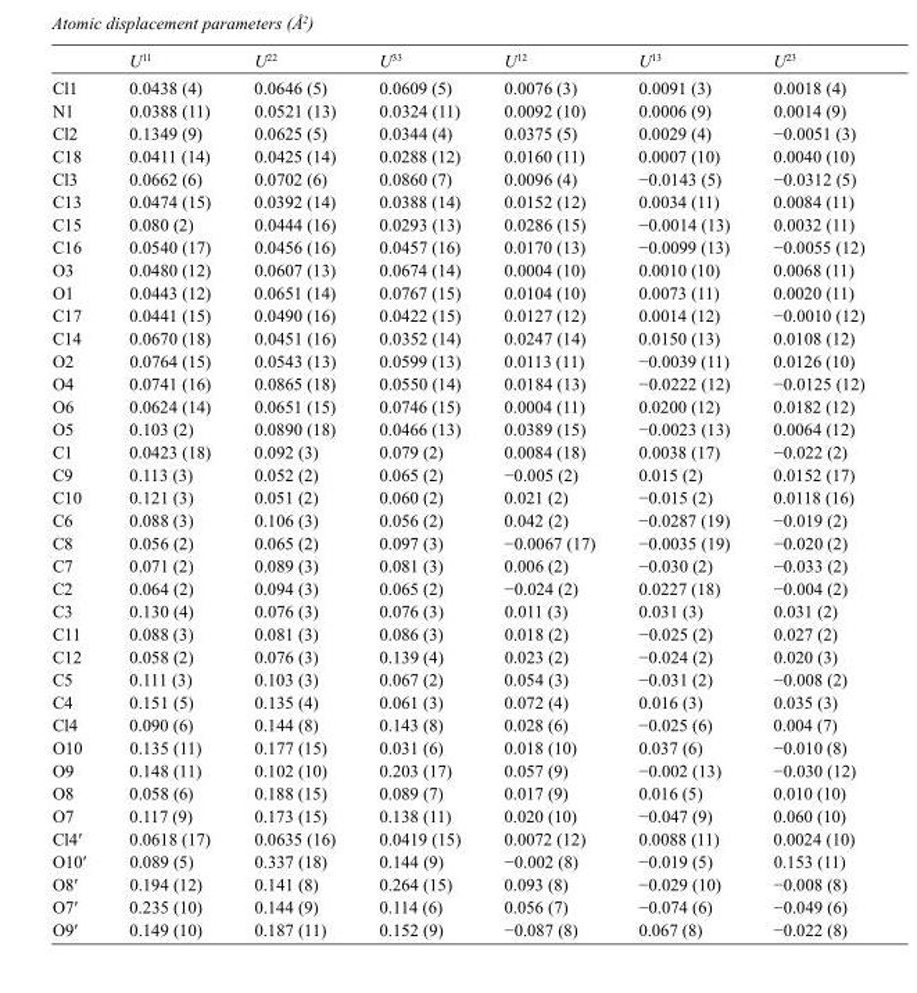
<table><thead><tr><td></td><td>U<sup>11</sup></td><td>U<sup>22</sup></td><td>U<sup>33</sup></td><td>U<sup>12</sup></td><td>U<sup>13</sup></td><td>U<sup>23</sup></td></tr></thead><tbody><tr><td>Cl1</td><td>0.0438 (4)</td><td>0.0646 (5)</td><td>0.0609 (5)</td><td>0.0076 (3)</td><td>0.0091 (3)</td><td>0.0018 (4)</td></tr><tr><td>N1</td><td>0.0388 (11)</td><td>0.0521 (13)</td><td>0.0324 (11)</td><td>0.0092 (10)</td><td>0.0006 (9)</td><td>0.0014 (9)</td></tr><tr><td>Cl2</td><td>0.1349 (9)</td><td>0.0625 (5)</td><td>0.0344 (4)</td><td>0.0375 (5)</td><td>0.0029 (4)</td><td>−0.0051 (3)</td></tr><tr><td>C18</td><td>0.0411 (14)</td><td>0.0425 (14)</td><td>0.0288 (12)</td><td>0.0160 (11)</td><td>0.0007 (10)</td><td>0.0040 (10)</td></tr><tr><td>Cl3</td><td>0.0662 (6)</td><td>0.0702 (6)</td><td>0.0860 (7)</td><td>0.0096 (4)</td><td>−0.0143 (5)</td><td>−0.0312 (5)</td></tr><tr><td>C13</td><td>0.0474 (15)</td><td>0.0392 (14)</td><td>0.0388 (14)</td><td>0.0152 (12)</td><td>0.0034 (11)</td><td>0.0084 (11)</td></tr><tr><td>C15</td><td>0.080 (2)</td><td>0.0444 (16)</td><td>0.0293 (13)</td><td>0.0286 (15)</td><td>−0.0014 (13)</td><td>0.0032 (11)</td></tr><tr><td>C16</td><td>0.0540 (17)</td><td>0.0456 (16)</td><td>0.0457 (16)</td><td>0.0170 (13)</td><td>−0.0099 (13)</td><td>−0.0055 (12)</td></tr><tr><td>O3</td><td>0.0480 (12)</td><td>0.0607 (13)</td><td>0.0674 (14)</td><td>0.0004 (10)</td><td>0.0010 (10)</td><td>0.0068 (11)</td></tr><tr><td>O1</td><td>0.0443 (12)</td><td>0.0651 (14)</td><td>0.0767 (15)</td><td>0.0104 (10)</td><td>0.0073 (11)</td><td>0.0020 (11)</td></tr><tr><td>C17</td><td>0.0441 (15)</td><td>0.0490 (16)</td><td>0.0422 (15)</td><td>0.0127 (12)</td><td>0.0014 (12)</td><td>−0.0010 (12)</td></tr><tr><td>C14</td><td>0.0670 (18)</td><td>0.0451 (16)</td><td>0.0352 (14)</td><td>0.0247 (14)</td><td>0.0150 (13)</td><td>0.0108 (12)</td></tr><tr><td>O2</td><td>0.0764 (15)</td><td>0.0543 (13)</td><td>0.0599 (13)</td><td>0.0113 (11)</td><td>−0.0039 (11)</td><td>0.0126 (10)</td></tr><tr><td>O4</td><td>0.0741 (16)</td><td>0.0865 (18)</td><td>0.0550 (14)</td><td>0.0184 (13)</td><td>−0.0222 (12)</td><td>−0.0125 (12)</td></tr><tr><td>O6</td><td>0.0624 (14)</td><td>0.0651 (15)</td><td>0.0746 (15)</td><td>0.0004 (11)</td><td>0.0200 (12)</td><td>0.0182 (12)</td></tr><tr><td>O5</td><td>0.103 (2)</td><td>0.0890 (18)</td><td>0.0466 (13)</td><td>0.0389 (15)</td><td>−0.0023 (13)</td><td>0.0064 (12)</td></tr><tr><td>C1</td><td>0.0423 (18)</td><td>0.092 (3)</td><td>0.079 (2)</td><td>0.0084 (18)</td><td>0.0038 (17)</td><td>−0.022 (2)</td></tr><tr><td>C9</td><td>0.113 (3)</td><td>0.052 (2)</td><td>0.065 (2)</td><td>−0.005 (2)</td><td>0.015 (2)</td><td>0.0152 (17)</td></tr><tr><td>C10</td><td>0.121 (3)</td><td>0.051 (2)</td><td>0.060 (2)</td><td>0.021 (2)</td><td>−0.015 (2)</td><td>0.0118 (16)</td></tr><tr><td>C6</td><td>0.088 (3)</td><td>0.106 (3)</td><td>0.056 (2)</td><td>0.042 (2)</td><td>−0.0287 (19)</td><td>−0.019 (2)</td></tr><tr><td>C8</td><td>0.056 (2)</td><td>0.065 (2)</td><td>0.097 (3)</td><td>−0.0067 (17)</td><td>−0.0035 (19)</td><td>−0.020 (2)</td></tr><tr><td>C7</td><td>0.071 (2)</td><td>0.089 (3)</td><td>0.081 (3)</td><td>0.006 (2)</td><td>−0.030 (2)</td><td>−0.033 (2)</td></tr><tr><td>C2</td><td>0.064 (2)</td><td>0.094 (3)</td><td>0.065 (2)</td><td>−0.024 (2)</td><td>0.0227 (18)</td><td>−0.004 (2)</td></tr><tr><td>C3</td><td>0.130 (4)</td><td>0.076 (3)</td><td>0.076 (3)</td><td>0.011 (3)</td><td>0.031 (3)</td><td>0.031 (2)</td></tr><tr><td>C11</td><td>0.088 (3)</td><td>0.081 (3)</td><td>0.086 (3)</td><td>0.018 (2)</td><td>−0.025 (2)</td><td>0.027 (2)</td></tr><tr><td>C12</td><td>0.058 (2)</td><td>0.076 (3)</td><td>0.139 (4)</td><td>0.023 (2)</td><td>−0.024 (2)</td><td>0.020 (3)</td></tr><tr><td>C5</td><td>0.111 (3)</td><td>0.103 (3)</td><td>0.067 (2)</td><td>0.054 (3)</td><td>−0.031 (2)</td><td>−0.008 (2)</td></tr><tr><td>C4</td><td>0.151 (5)</td><td>0.135 (4)</td><td>0.061 (3)</td><td>0.072 (4)</td><td>0.016 (3)</td><td>0.035 (3)</td></tr><tr><td>Cl4</td><td>0.090 (6)</td><td>0.144 (8)</td><td>0.143 (8)</td><td>0.028 (6)</td><td>−0.025 (6)</td><td>0.004 (7)</td></tr><tr><td>O10</td><td>0.135 (11)</td><td>0.177 (15)</td><td>0.031 (6)</td><td>0.018 (10)</td><td>0.037 (6)</td><td>−0.010 (8)</td></tr><tr><td>O9</td><td>0.148 (11)</td><td>0.102 (10)</td><td>0.203 (17)</td><td>0.057 (9)</td><td>−0.002 (13)</td><td>−0.030 (12)</td></tr><tr><td>O8</td><td>0.058 (6)</td><td>0.188 (15)</td><td>0.089 (7)</td><td>0.017 (9)</td><td>0.016 (5)</td><td>0.010 (10)</td></tr><tr><td>O7</td><td>0.117 (9)</td><td>0.173 (15)</td><td>0.138 (11)</td><td>0.020 (10)</td><td>−0.047 (9)</td><td>0.060 (10)</td></tr><tr><td>Cl4′</td><td>0.0618 (17)</td><td>0.0635 (16)</td><td>0.0419 (15)</td><td>0.0072 (12)</td><td>0.0088 (11)</td><td>0.0024 (10)</td></tr><tr><td>O10′</td><td>0.089 (5)</td><td>0.337 (18)</td><td>0.144 (9)</td><td>−0.002 (8)</td><td>−0.019 (5)</td><td>0.153 (11)</td></tr><tr><td>O8′</td><td>0.194 (12)</td><td>0.141 (8)</td><td>0.264 (15)</td><td>0.093 (8)</td><td>−0.029 (10)</td><td>−0.008 (8)</td></tr><tr><td>O7′</td><td>0.235 (10)</td><td>0.144 (9)</td><td>0.114 (6)</td><td>0.056 (7)</td><td>−0.074 (6)</td><td>−0.049 (6)</td></tr><tr><td>O9′</td><td>0.149 (10)</td><td>0.187 (11)</td><td>0.152 (9)</td><td>−0.087 (8)</td><td>0.067 (8)</td><td>−0.022 (8)</td></tr></tbody></table>